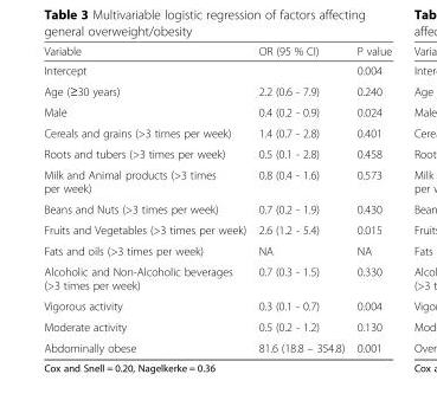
<table><thead><tr><td>Variable</td><td>OR (95 % CI)</td><td>P value</td></tr></thead><tbody><tr><td>Intercept</td><td></td><td>0.004</td></tr><tr><td>Age (≥30 years)</td><td>2.2 (0.6 - 7.9)</td><td>0.240</td></tr><tr><td>Male</td><td>0.4 (0.2 - 0.9)</td><td>0.024</td></tr><tr><td>Cereals and grains (&gt;3 times per week)</td><td>1.4 (0.7 - 2.8)</td><td>0.401</td></tr><tr><td>Roots and tubers (&gt;3 times per week)</td><td>0.5 (0.1 - 2.8)</td><td>0.458</td></tr><tr><td>Milk and Animal products (&gt;3 times per week)</td><td>0.8 (0.4 - 1.6)</td><td>0.573</td></tr><tr><td>Beans and Nuts (&gt;3 times per week)</td><td>0.7 (0.2 - 1.9)</td><td>0.430</td></tr><tr><td>Fruits and Vegetables (&gt;3 times per week)</td><td>2.6 (1.2 - 5.4)</td><td>0.015</td></tr><tr><td>Fats and oils (&gt;3 times per week)</td><td>NA</td><td>NA</td></tr><tr><td>Alcoholic and Non-Alcoholic beverages (&gt;3 times per week)</td><td>0.7 (0.3 - 1.5)</td><td>0.330</td></tr><tr><td>Vigorous activity</td><td>0.3 (0.1 - 0.7)</td><td>0.004</td></tr><tr><td>Moderate activity</td><td>0.5 (0.2 - 1.2)</td><td>0.130</td></tr><tr><td>Abdominally obese</td><td>81.6 (18.8 – 354.8)</td><td>0.001</td></tr></tbody></table>